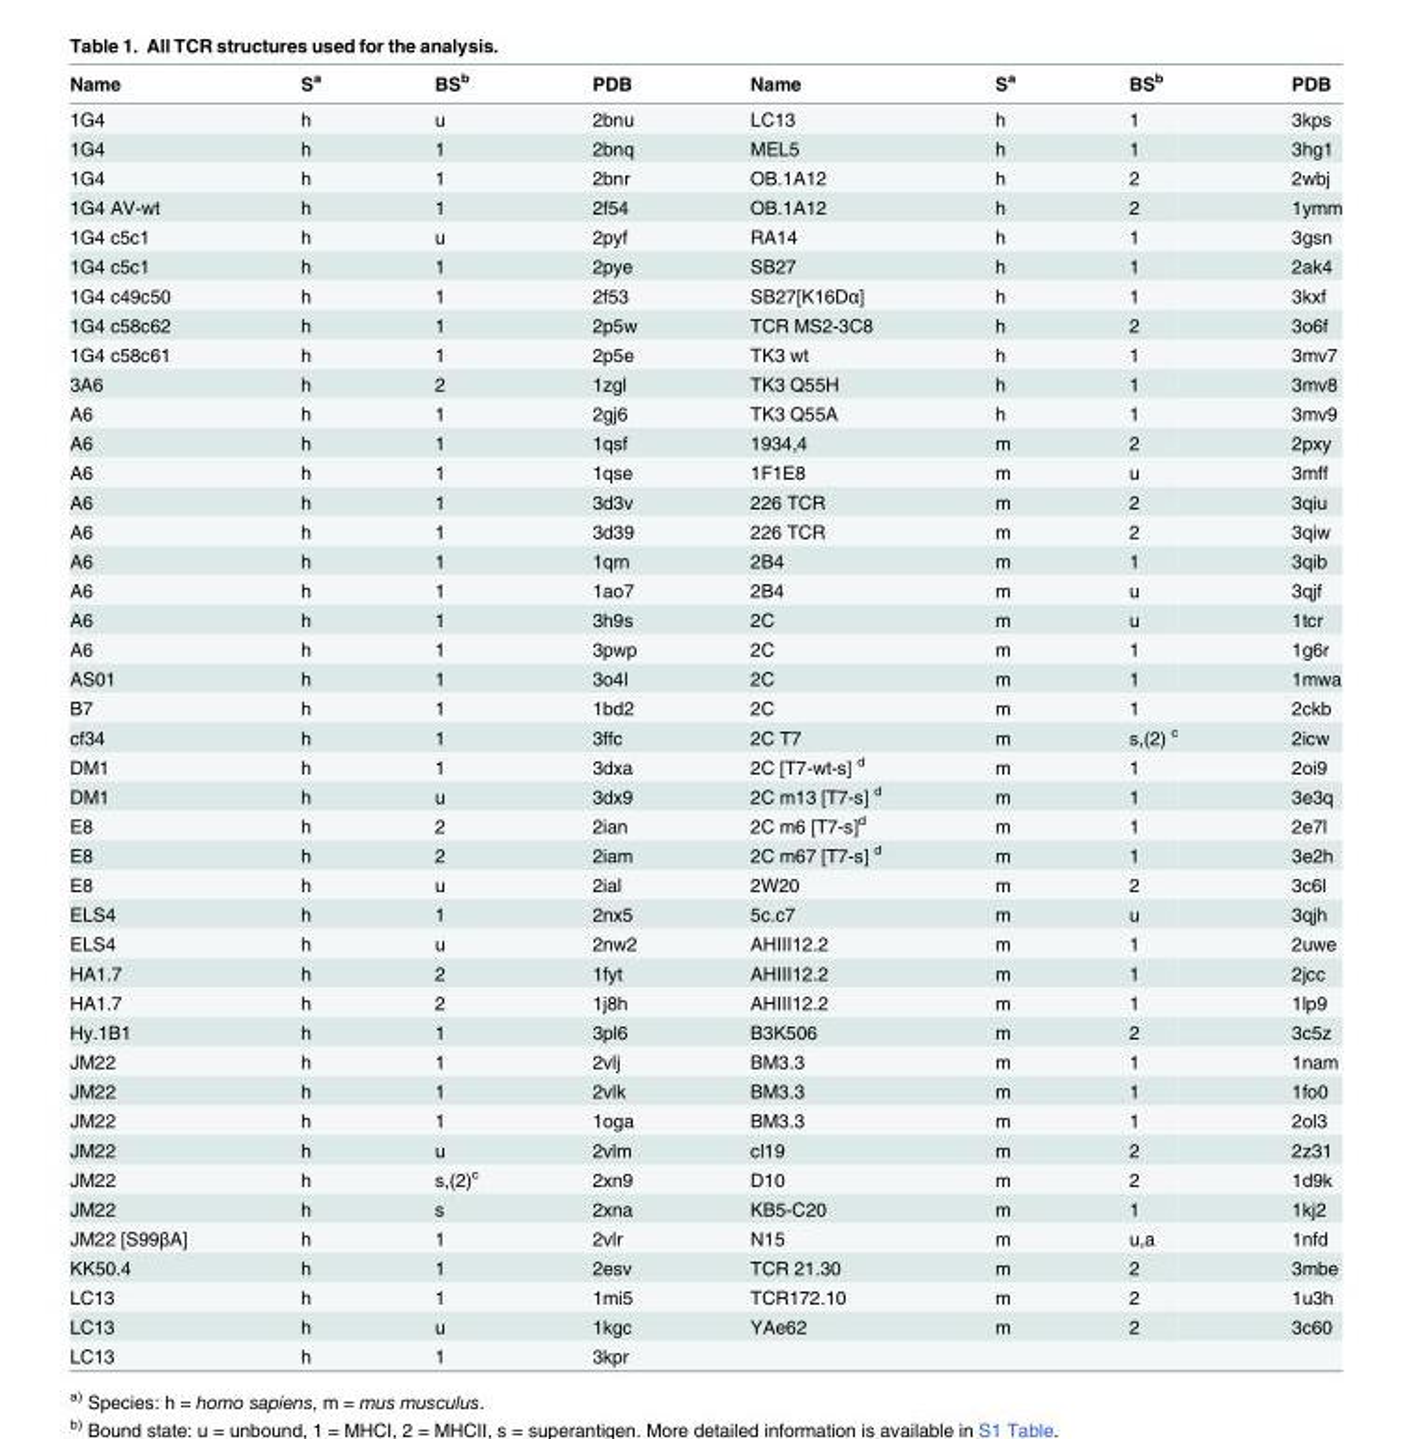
<table><thead><tr><td>Name</td><td>S<sup>a</sup></td><td>BS<sup>b</sup></td><td>PDB</td><td>Name</td><td>S<sup>a</sup></td><td>BS<sup>b</sup></td><td>PDB</td></tr></thead><tbody><tr><td>1G4</td><td>h</td><td>u</td><td>2bnu</td><td>LC13</td><td>h</td><td>1</td><td>3kps</td></tr><tr><td>1G4</td><td>h</td><td>1</td><td>2bnq</td><td>MEL5</td><td>h</td><td>1</td><td>3hg1</td></tr><tr><td>1G4</td><td>h</td><td>1</td><td>2bnr</td><td>OB.1A12</td><td>h</td><td>2</td><td>2wbj</td></tr><tr><td>1G4 AV-wt</td><td>h</td><td>1</td><td>2f54</td><td>OB.1A12</td><td>h</td><td>2</td><td>1ymm</td></tr><tr><td>1G4 c5c1</td><td>h</td><td>u</td><td>2pyf</td><td>RA14</td><td>h</td><td>1</td><td>3gsn</td></tr><tr><td>1G4 c5c1</td><td>h</td><td>1</td><td>2pye</td><td>SB27</td><td>h</td><td>1</td><td>2ak4</td></tr><tr><td>1G4 c49c50</td><td>h</td><td>1</td><td>2f53</td><td>SB27[K16Dα]</td><td>h</td><td>1</td><td>3kxf</td></tr><tr><td>1G4 c58c62</td><td>h</td><td>1</td><td>2p5w</td><td>TCR MS2-3C8</td><td>h</td><td>2</td><td>3o6f</td></tr><tr><td>1G4 c58c61</td><td>h</td><td>1</td><td>2p5e</td><td>TK3 wt</td><td>h</td><td>1</td><td>3mv7</td></tr><tr><td>3A6</td><td>h</td><td>2</td><td>1zgl</td><td>TK3 Q55H</td><td>h</td><td>1</td><td>3mv8</td></tr><tr><td>A6</td><td>h</td><td>1</td><td>2gj6</td><td>TK3 Q55A</td><td>h</td><td>1</td><td>3mv9</td></tr><tr><td>A6</td><td>h</td><td>1</td><td>1qsf</td><td>1934,4</td><td>m</td><td>2</td><td>2pxy</td></tr><tr><td>A6</td><td>h</td><td>1</td><td>1qse</td><td>1F1E8</td><td>m</td><td>u</td><td>3mff</td></tr><tr><td>A6</td><td>h</td><td>1</td><td>3d3v</td><td>226 TCR</td><td>m</td><td>2</td><td>3qiu</td></tr><tr><td>A6</td><td>h</td><td>1</td><td>3d39</td><td>226 TCR</td><td>m</td><td>2</td><td>3qiw</td></tr><tr><td>A6</td><td>h</td><td>1</td><td>1qrn</td><td>2B4</td><td>m</td><td>1</td><td>3qib</td></tr><tr><td>A6</td><td>h</td><td>1</td><td>1ao7</td><td>2B4</td><td>m</td><td>u</td><td>3qjf</td></tr><tr><td>A6</td><td>h</td><td>1</td><td>3h9s</td><td>2C</td><td>m</td><td>u</td><td>1tcr</td></tr><tr><td>A6</td><td>h</td><td>1</td><td>3pwp</td><td>2C</td><td>m</td><td>1</td><td>1g6r</td></tr><tr><td>AS01</td><td>h</td><td>1</td><td>3o4l</td><td>2C</td><td>m</td><td>1</td><td>1mwa</td></tr><tr><td>B7</td><td>h</td><td>1</td><td>1bd2</td><td>2C</td><td>m</td><td>1</td><td>2ckb</td></tr><tr><td>cf34</td><td>h</td><td>1</td><td>3ffc</td><td>2C T7</td><td>m</td><td>s,(2) <sup>c</sup></td><td>2icw</td></tr><tr><td>DM1</td><td>h</td><td>1</td><td>3dxa</td><td>2C [T7-wt-s] <sup>d</sup></td><td>m</td><td>1</td><td>2oi9</td></tr><tr><td>DM1</td><td>h</td><td>u</td><td>3dx9</td><td>2C m13 [T7-s] <sup>d</sup></td><td>m</td><td>1</td><td>3e3q</td></tr><tr><td>E8</td><td>h</td><td>2</td><td>2ian</td><td>2C m6 [T7-s]<sup>d</sup></td><td>m</td><td>1</td><td>2e7l</td></tr><tr><td>E8</td><td>h</td><td>2</td><td>2iam</td><td>2C m67 [T7-s] <sup>d</sup></td><td>m</td><td>1</td><td>3e2h</td></tr><tr><td>E8</td><td>h</td><td>u</td><td>2ial</td><td>2W20</td><td>m</td><td>2</td><td>3c6l</td></tr><tr><td>ELS4</td><td>h</td><td>1</td><td>2nx5</td><td>5c.c7</td><td>m</td><td>u</td><td>3qjh</td></tr><tr><td>ELS4</td><td>h</td><td>u</td><td>2nw2</td><td>AHIII12.2</td><td>m</td><td>1</td><td>2uwe</td></tr><tr><td>HA1.7</td><td>h</td><td>2</td><td>1fyt</td><td>AHIII12.2</td><td>m</td><td>1</td><td>2jcc</td></tr><tr><td>HA1.7</td><td>h</td><td>2</td><td>1j8h</td><td>AHIII12.2</td><td>m</td><td>1</td><td>1lp9</td></tr><tr><td>Hy.1B1</td><td>h</td><td>1</td><td>3pl6</td><td>B3K506</td><td>m</td><td>2</td><td>3c5z</td></tr><tr><td>JM22</td><td>h</td><td>1</td><td>2vlj</td><td>BM3.3</td><td>m</td><td>1</td><td>1nam</td></tr><tr><td>JM22</td><td>h</td><td>1</td><td>2vlk</td><td>BM3.3</td><td>m</td><td>1</td><td>1fo0</td></tr><tr><td>JM22</td><td>h</td><td>1</td><td>1oga</td><td>BM3.3</td><td>m</td><td>1</td><td>2ol3</td></tr><tr><td>JM22</td><td>h</td><td>u</td><td>2vlm</td><td>cl19</td><td>m</td><td>2</td><td>2z31</td></tr><tr><td>JM22</td><td>h</td><td>s,(2)<sup>c</sup></td><td>2xn9</td><td>D10</td><td>m</td><td>2</td><td>1d9k</td></tr><tr><td>JM22</td><td>h</td><td>s</td><td>2xna</td><td>KB5-C20</td><td>m</td><td>1</td><td>1kj2</td></tr><tr><td>JM22 [S99βA]</td><td>h</td><td>1</td><td>2vlr</td><td>N15</td><td>m</td><td>u,a</td><td>1nfd</td></tr><tr><td>KK50.4</td><td>h</td><td>1</td><td>2esv</td><td>TCR 21.30</td><td>m</td><td>2</td><td>3mbe</td></tr><tr><td>LC13</td><td>h</td><td>1</td><td>1mi5</td><td>TCR172.10</td><td>m</td><td>2</td><td>1u3h</td></tr><tr><td>LC13</td><td>h</td><td>u</td><td>1kgc</td><td>YAe62</td><td>m</td><td>2</td><td>3c60</td></tr><tr><td>LC13</td><td>h</td><td>1</td><td>3kpr</td><td></td><td></td><td></td><td></td></tr></tbody></table>